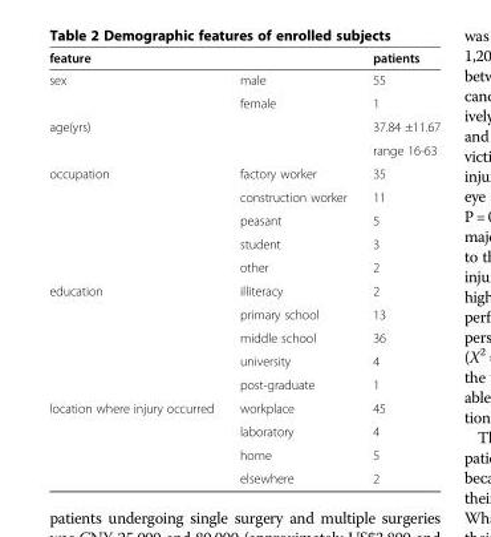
<table><thead><tr><td>feature</td><td></td><td>patients</td></tr></thead><tbody><tr><td rowspan="2">sex</td><td>male</td><td>55</td></tr><tr><td>female</td><td>1</td></tr><tr><td rowspan="2">age(yrs)</td><td></td><td>37.84 ±11.67</td></tr><tr><td></td><td>range 16-63</td></tr><tr><td rowspan="5">occupation</td><td>factory worker</td><td>35</td></tr><tr><td>construction worker</td><td>11</td></tr><tr><td>peasant</td><td>5</td></tr><tr><td>student</td><td>3</td></tr><tr><td>other</td><td>2</td></tr><tr><td rowspan="5">education</td><td>illiteracy</td><td>2</td></tr><tr><td>primary school</td><td>13</td></tr><tr><td>middle school</td><td>36</td></tr><tr><td>university</td><td>4</td></tr><tr><td>post-graduate</td><td>1</td></tr><tr><td rowspan="4">location where injury occurred</td><td>workplace</td><td>45</td></tr><tr><td>laboratory</td><td>4</td></tr><tr><td>home</td><td>5</td></tr><tr><td>elsewhere</td><td>2</td></tr></tbody></table>